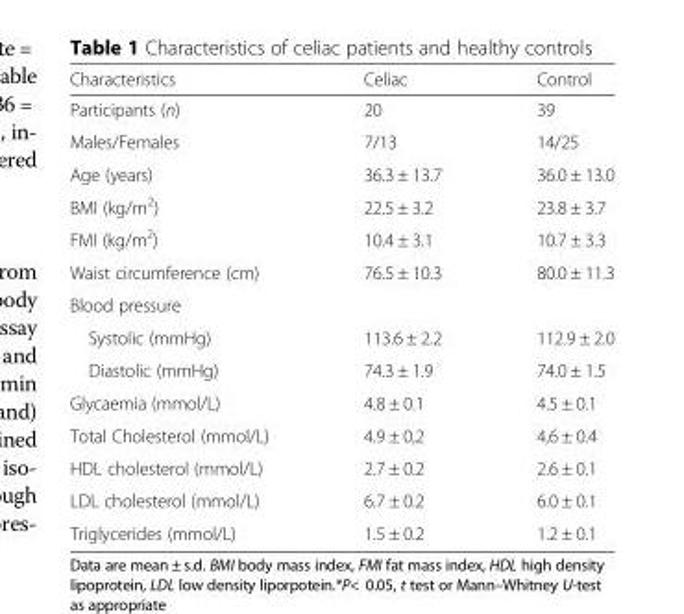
<table><thead><tr><td>Characteristics</td><td>Celiac</td><td>Control</td></tr></thead><tbody><tr><td>Participants (n)</td><td>20</td><td>39</td></tr><tr><td>Males/Females</td><td>7/13</td><td>14/25</td></tr><tr><td>Age (years)</td><td>36.3 ± 13.7</td><td>36.0 ± 13.0</td></tr><tr><td>BMI (kg/m<sup>2</sup>)</td><td>22.5 ± 3.2</td><td>23.8 ± 3.7</td></tr><tr><td>FMI (kg/m<sup>2</sup>)</td><td>10.4 ± 3.1</td><td>10.7 ± 3.3</td></tr><tr><td>Waist circumference (cm)</td><td>76.5 ± 10.3</td><td>80.0 ± 11.3</td></tr><tr><td colspan="3">Blood pressure</td></tr><tr><td>Systolic (mmHg)</td><td>113.6 ± 2.2</td><td>112.9 ± 2.0</td></tr><tr><td>Diastolic (mmHg)</td><td>74.3 ± 1.9</td><td>74.0 ± 1.5</td></tr><tr><td>Glycaemia (mmol/L)</td><td>4.8 ± 0.1</td><td>4.5 ± 0.1</td></tr><tr><td>Total Cholesterol (mmol/L)</td><td>4.9 ± 0,2</td><td>4,6 ± 0.4</td></tr><tr><td>HDL cholesterol (mmol/L)</td><td>2.7 ± 0.2</td><td>2.6 ± 0.1</td></tr><tr><td>LDL cholesterol (mmol/L)</td><td>6.7 ± 0.2</td><td>6.0 ± 0.1</td></tr><tr><td>Triglycerides (mmol/L)</td><td>1.5 ± 0.2</td><td>1.2 ± 0.1</td></tr></tbody></table>